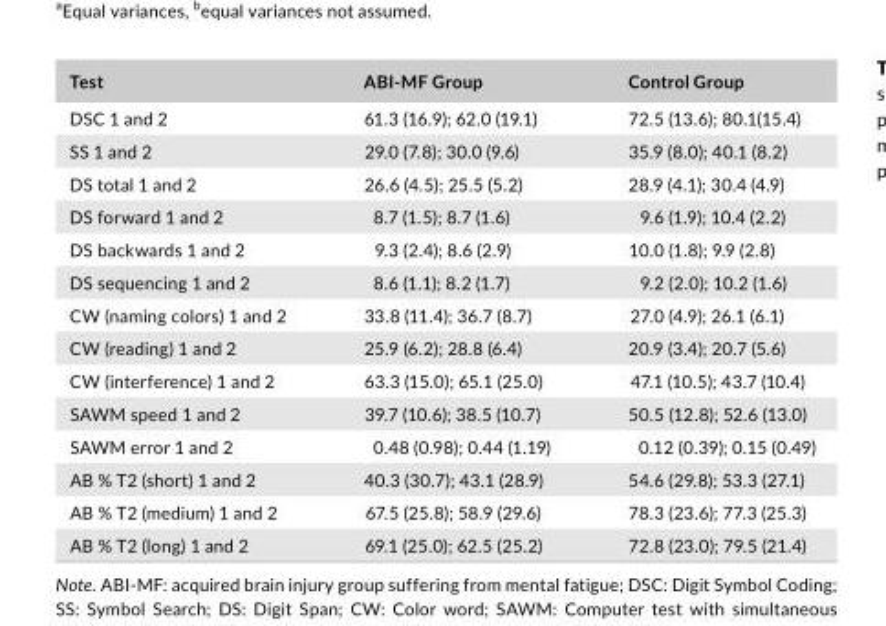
<table><thead><tr><td>Test</td><td>ABI- MF Group</td><td>Control Group</td></tr></thead><tbody><tr><td>DSC 1 and 2</td><td>61.3 (16.9); 62.0 (19.1)</td><td>72.5 (13.6); 80.1(15.4)</td></tr><tr><td>SS 1 and 2</td><td>29.0 (7.8); 30.0 (9.6)</td><td>35.9 (8.0); 40.1 (8.2)</td></tr><tr><td>DS total 1 and 2</td><td>26.6 (4.5); 25.5 (5.2)</td><td>28.9 (4.1); 30.4 (4.9)</td></tr><tr><td>DS forward 1 and 2</td><td>8.7 (1.5); 8.7 (1.6)</td><td>9.6 (1.9); 10.4 (2.2)</td></tr><tr><td>DS backwards 1 and 2</td><td>9.3 (2.4); 8.6 (2.9)</td><td>10.0 (1.8); 9.9 (2.8)</td></tr><tr><td>DS sequencing 1 and 2</td><td>8.6 (1.1); 8.2 (1.7)</td><td>9.2 (2.0); 10.2 (1.6)</td></tr><tr><td>CW (naming colors) 1 and 2</td><td>33.8 (11.4); 36.7 (8.7)</td><td>27.0 (4.9); 26.1 (6.1)</td></tr><tr><td>CW (reading) 1 and 2</td><td>25.9 (6.2); 28.8 (6.4)</td><td>20.9 (3.4); 20.7 (5.6)</td></tr><tr><td>CW (interference) 1 and 2</td><td>63.3 (15.0); 65.1 (25.0)</td><td>47.1 (10.5); 43.7 (10.4)</td></tr><tr><td>SAWM speed 1 and 2</td><td>39.7 (10.6); 38.5 (10.7)</td><td>50.5 (12.8); 52.6 (13.0)</td></tr><tr><td>SAWM error 1 and 2</td><td>0.48 (0.98); 0.44 (1.19)</td><td>0.12 (0.39); 0.15 (0.49)</td></tr><tr><td>AB % T2 (short) 1 and 2</td><td>40.3 (30.7); 43.1 (28.9)</td><td>54.6 (29.8); 53.3 (27.1)</td></tr><tr><td>AB % T2 (medium) 1 and 2</td><td>67.5 (25.8); 58.9 (29.6)</td><td>78.3 (23.6); 77.3 (25.3)</td></tr><tr><td>AB % T2 (long) 1 and 2</td><td>69.1 (25.0); 62.5 (25.2)</td><td>72.8 (23.0); 79.5 (21.4)</td></tr></tbody></table>